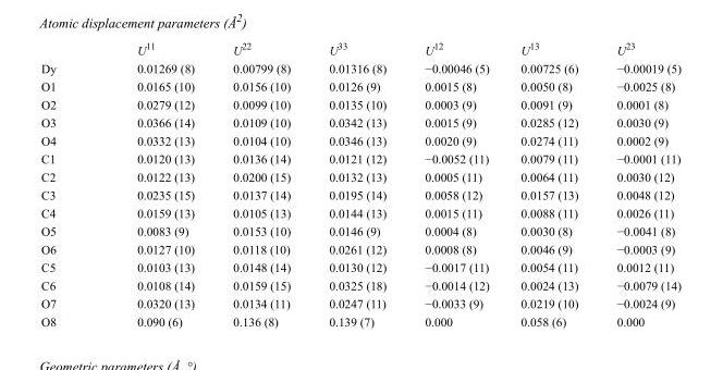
<table><thead><tr><td></td><td>U<sup>11</sup></td><td>U<sup>22</sup></td><td>U<sup>33</sup></td><td>U<sup>12</sup></td><td>U<sup>13</sup></td><td>U<sup>23</sup></td></tr></thead><tbody><tr><td>Dy</td><td>0.01269 (8)</td><td>0.00799 (8)</td><td>0.01316 (8)</td><td>−0.00046 (5)</td><td>0.00725 (6)</td><td>−0.00019 (5)</td></tr><tr><td>O1</td><td>0.0165 (10)</td><td>0.0156 (10)</td><td>0.0126 (9)</td><td>0.0015 (8)</td><td>0.0050 (8)</td><td>−0.0025 (8)</td></tr><tr><td>O2</td><td>0.0279 (12)</td><td>0.0099 (10)</td><td>0.0135 (10)</td><td>0.0003 (9)</td><td>0.0091 (9)</td><td>0.0001 (8)</td></tr><tr><td>O3</td><td>0.0366 (14)</td><td>0.0109 (10)</td><td>0.0342 (13)</td><td>0.0015 (9)</td><td>0.0285 (12)</td><td>0.0030 (9)</td></tr><tr><td>O4</td><td>0.0332 (13)</td><td>0.0104 (10)</td><td>0.0346 (13)</td><td>0.0020 (9)</td><td>0.0274 (11)</td><td>0.0002 (9)</td></tr><tr><td>C1</td><td>0.0120 (13)</td><td>0.0136 (14)</td><td>0.0121 (12)</td><td>−0.0052 (11)</td><td>0.0079 (11)</td><td>−0.0001 (11)</td></tr><tr><td>C2</td><td>0.0122 (13)</td><td>0.0200 (15)</td><td>0.0132 (13)</td><td>0.0005 (11)</td><td>0.0064 (11)</td><td>0.0030 (12)</td></tr><tr><td>C3</td><td>0.0235 (15)</td><td>0.0137 (14)</td><td>0.0195 (14)</td><td>0.0058 (12)</td><td>0.0157 (13)</td><td>0.0048 (12)</td></tr><tr><td>C4</td><td>0.0159 (13)</td><td>0.0105 (13)</td><td>0.0144 (13)</td><td>0.0015 (11)</td><td>0.0088 (11)</td><td>0.0026 (11)</td></tr><tr><td>O5</td><td>0.0083 (9)</td><td>0.0153 (10)</td><td>0.0146 (9)</td><td>0.0004 (8)</td><td>0.0030 (8)</td><td>−0.0041 (8)</td></tr><tr><td>O6</td><td>0.0127 (10)</td><td>0.0118 (10)</td><td>0.0261 (12)</td><td>0.0008 (8)</td><td>0.0046 (9)</td><td>−0.0003 (9)</td></tr><tr><td>C5</td><td>0.0103 (13)</td><td>0.0148 (14)</td><td>0.0130 (12)</td><td>−0.0017 (11)</td><td>0.0054 (11)</td><td>0.0012 (11)</td></tr><tr><td>C6</td><td>0.0108 (14)</td><td>0.0159 (15)</td><td>0.0325 (18)</td><td>−0.0014 (12)</td><td>0.0024 (13)</td><td>−0.0079 (14)</td></tr><tr><td>O7</td><td>0.0320 (13)</td><td>0.0134 (11)</td><td>0.0247 (11)</td><td>−0.0033 (9)</td><td>0.0219 (10)</td><td>−0.0024 (9)</td></tr><tr><td>O8</td><td>0.090 (6)</td><td>0.136 (8)</td><td>0.139 (7)</td><td>0.000</td><td>0.058 (6)</td><td>0.000</td></tr></tbody></table>